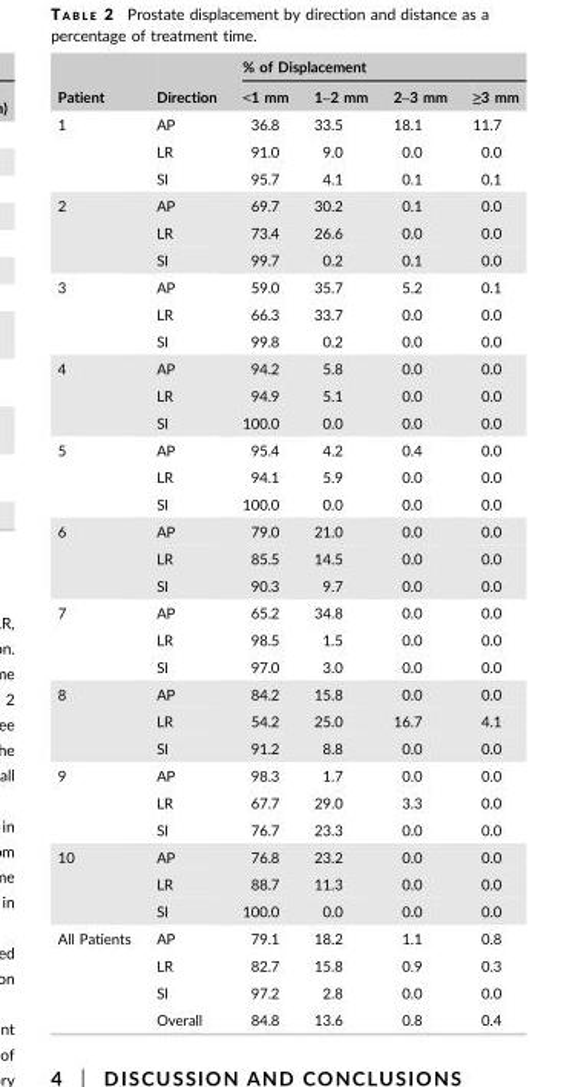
<table><thead><tr><td rowspan="2">Patient</td><td rowspan="2">Direction</td><td colspan="4">% of Displacement</td></tr><tr><td>&lt;1 mm</td><td>1–2 mm</td><td>2–3 mm</td><td>≥3 mm</td></tr></thead><tbody><tr><td rowspan="3">1</td><td>AP</td><td>36.8</td><td>33.5</td><td>18.1</td><td>11.7</td></tr><tr><td>LR</td><td>91.0</td><td>9.0</td><td>0.0</td><td>0.0</td></tr><tr><td>SI</td><td>95.7</td><td>4.1</td><td>0.1</td><td>0.1</td></tr><tr><td rowspan="3">2</td><td>AP</td><td>69.7</td><td>30.2</td><td>0.1</td><td>0.0</td></tr><tr><td>LR</td><td>73.4</td><td>26.6</td><td>0.0</td><td>0.0</td></tr><tr><td>SI</td><td>99.7</td><td>0.2</td><td>0.1</td><td>0.0</td></tr><tr><td rowspan="3">3</td><td>AP</td><td>59.0</td><td>35.7</td><td>5.2</td><td>0.1</td></tr><tr><td>LR</td><td>66.3</td><td>33.7</td><td>0.0</td><td>0.0</td></tr><tr><td>SI</td><td>99.8</td><td>0.2</td><td>0.0</td><td>0.0</td></tr><tr><td rowspan="3">4</td><td>AP</td><td>94.2</td><td>5.8</td><td>0.0</td><td>0.0</td></tr><tr><td>LR</td><td>94.9</td><td>5.1</td><td>0.0</td><td>0.0</td></tr><tr><td>SI</td><td>100.0</td><td>0.0</td><td>0.0</td><td>0.0</td></tr><tr><td rowspan="3">5</td><td>AP</td><td>95.4</td><td>4.2</td><td>0.4</td><td>0.0</td></tr><tr><td>LR</td><td>94.1</td><td>5.9</td><td>0.0</td><td>0.0</td></tr><tr><td>SI</td><td>100.0</td><td>0.0</td><td>0.0</td><td>0.0</td></tr><tr><td rowspan="3">6</td><td>AP</td><td>79.0</td><td>21.0</td><td>0.0</td><td>0.0</td></tr><tr><td>LR</td><td>85.5</td><td>14.5</td><td>0.0</td><td>0.0</td></tr><tr><td>SI</td><td>90.3</td><td>9.7</td><td>0.0</td><td>0.0</td></tr><tr><td rowspan="3">7</td><td>AP</td><td>65.2</td><td>34.8</td><td>0.0</td><td>0.0</td></tr><tr><td>LR</td><td>98.5</td><td>1.5</td><td>0.0</td><td>0.0</td></tr><tr><td>SI</td><td>97.0</td><td>3.0</td><td>0.0</td><td>0.0</td></tr><tr><td rowspan="3">8</td><td>AP</td><td>84.2</td><td>15.8</td><td>0.0</td><td>0.0</td></tr><tr><td>LR</td><td>54.2</td><td>25.0</td><td>16.7</td><td>4.1</td></tr><tr><td>SI</td><td>91.2</td><td>8.8</td><td>0.0</td><td>0.0</td></tr><tr><td rowspan="3">9</td><td>AP</td><td>98.3</td><td>1.7</td><td>0.0</td><td>0.0</td></tr><tr><td>LR</td><td>67.7</td><td>29.0</td><td>3.3</td><td>0.0</td></tr><tr><td>SI</td><td>76.7</td><td>23.3</td><td>0.0</td><td>0.0</td></tr><tr><td rowspan="3">10</td><td>AP</td><td>76.8</td><td>23.2</td><td>0.0</td><td>0.0</td></tr><tr><td>LR</td><td>88.7</td><td>11.3</td><td>0.0</td><td>0.0</td></tr><tr><td>SI</td><td>100.0</td><td>0.0</td><td>0.0</td><td>0.0</td></tr><tr><td rowspan="4">All Patients</td><td>AP</td><td>79.1</td><td>18.2</td><td>1.1</td><td>0.8</td></tr><tr><td>LR</td><td>82.7</td><td>15.8</td><td>0.9</td><td>0.3</td></tr><tr><td>SI</td><td>97.2</td><td>2.8</td><td>0.0</td><td>0.0</td></tr><tr><td>Overall</td><td>84.8</td><td>13.6</td><td>0.8</td><td>0.4</td></tr></tbody></table>